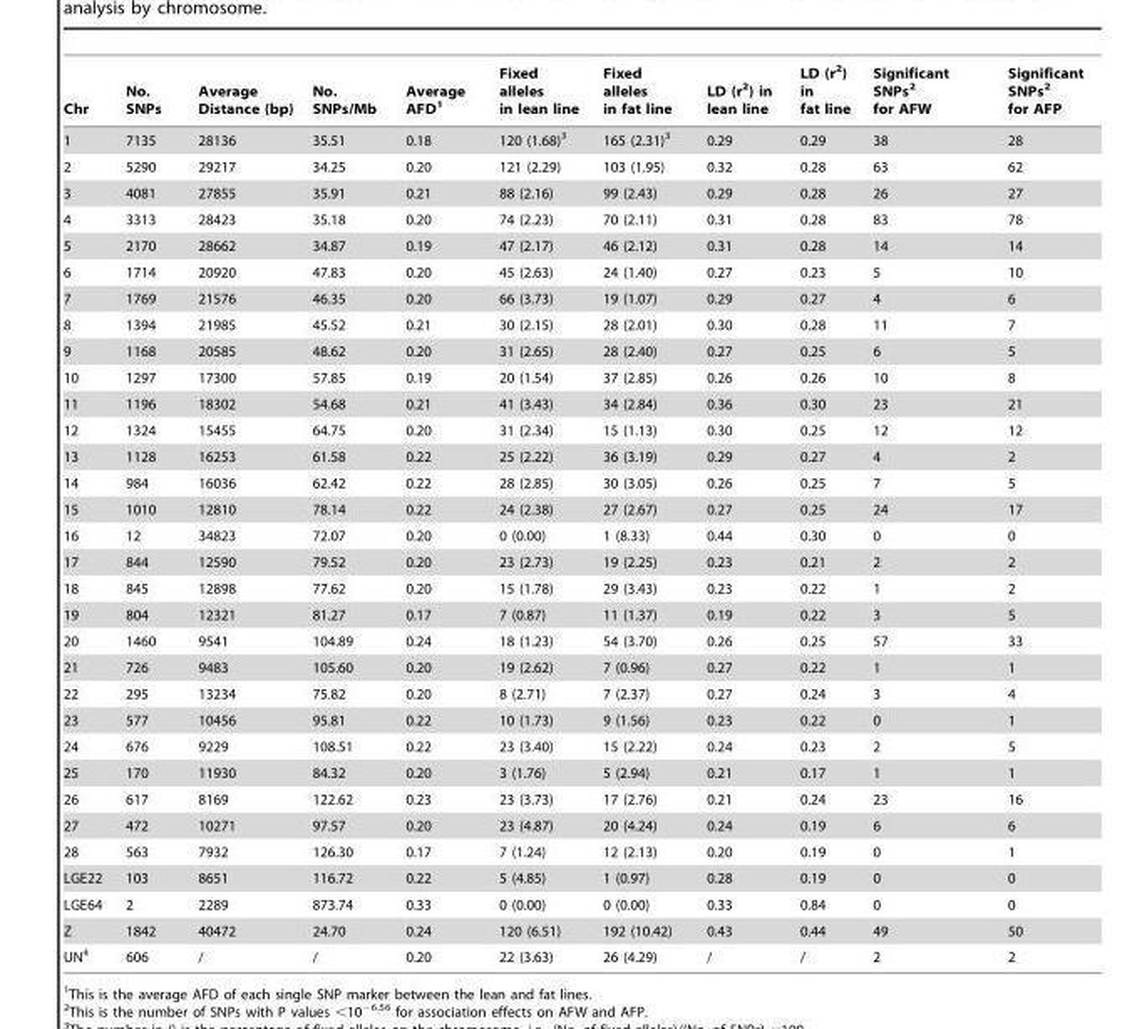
<table><thead><tr><td>Chr</td><td>No. SNPs</td><td>Average Distance (bp)</td><td>No. SNPs/Mb</td><td>Average AFD<sup>1</sup></td><td>Fixed alleles in lean line</td><td>Fixed alleles in fat line</td><td>LD (r<sup>2</sup>) in lean line</td><td>LD (r<sup>2</sup>) in fat line</td><td>Significant SNPs<sup>2</sup> for AFW</td><td>Significant SNPs<sup>2</sup> for AFP</td></tr></thead><tbody><tr><td>1</td><td>7135</td><td>28136</td><td>35.51</td><td>0.18</td><td>120 (1.68)<sup>3</sup></td><td>165 (2.31)<sup>3</sup></td><td>0.29</td><td>0.29</td><td>38</td><td>28</td></tr><tr><td>2</td><td>5290</td><td>29217</td><td>34.25</td><td>0.20</td><td>121 (2.29)</td><td>103 (1.95)</td><td>0.32</td><td>0.28</td><td>63</td><td>62</td></tr><tr><td>3</td><td>4081</td><td>27855</td><td>35.91</td><td>0.21</td><td>88 (2.16)</td><td>99 (2.43)</td><td>0.29</td><td>0.28</td><td>26</td><td>27</td></tr><tr><td>4</td><td>3313</td><td>28423</td><td>35.18</td><td>0.20</td><td>74 (2.23)</td><td>70 (2.11)</td><td>0.31</td><td>0.28</td><td>83</td><td>78</td></tr><tr><td>5</td><td>2170</td><td>28662</td><td>34.87</td><td>0.19</td><td>47 (2.17)</td><td>46 (2.12)</td><td>0.31</td><td>0.28</td><td>14</td><td>14</td></tr><tr><td>6</td><td>1714</td><td>20920</td><td>47.83</td><td>0.20</td><td>45 (2.63)</td><td>24 (1.40)</td><td>0.27</td><td>0.23</td><td>5</td><td>10</td></tr><tr><td>7</td><td>1769</td><td>21576</td><td>46.35</td><td>0.20</td><td>66 (3.73)</td><td>19 (1.07)</td><td>0.29</td><td>0.27</td><td>4</td><td>6</td></tr><tr><td>8</td><td>1394</td><td>21985</td><td>45.52</td><td>0.21</td><td>30 (2.15)</td><td>28 (2.01)</td><td>0.30</td><td>0.28</td><td>11</td><td>7</td></tr><tr><td>9</td><td>1168</td><td>20585</td><td>48.62</td><td>0.20</td><td>31 (2.65)</td><td>28 (2.40)</td><td>0.27</td><td>0.25</td><td>6</td><td>5</td></tr><tr><td>10</td><td>1297</td><td>17300</td><td>57.85</td><td>0.19</td><td>20 (1.54)</td><td>37 (2.85)</td><td>0.26</td><td>0.26</td><td>10</td><td>8</td></tr><tr><td>11</td><td>1196</td><td>18302</td><td>54.68</td><td>0.21</td><td>41 (3.43)</td><td>34 (2.84)</td><td>0.36</td><td>0.30</td><td>23</td><td>21</td></tr><tr><td>12</td><td>1324</td><td>15455</td><td>64.75</td><td>0.20</td><td>31 (2.34)</td><td>15 (1.13)</td><td>0.30</td><td>0.25</td><td>12</td><td>12</td></tr><tr><td>13</td><td>1128</td><td>16253</td><td>61.58</td><td>0.22</td><td>25 (2.22)</td><td>36 (3.19)</td><td>0.29</td><td>0.27</td><td>4</td><td>2</td></tr><tr><td>14</td><td>984</td><td>16036</td><td>62.42</td><td>0.22</td><td>28 (2.85)</td><td>30 (3.05)</td><td>0.26</td><td>0.25</td><td>7</td><td>5</td></tr><tr><td>15</td><td>1010</td><td>12810</td><td>78.14</td><td>0.22</td><td>24 (2.38)</td><td>27 (2.67)</td><td>0.27</td><td>0.25</td><td>24</td><td>17</td></tr><tr><td>16</td><td>12</td><td>34823</td><td>72.07</td><td>0.20</td><td>0 (0.00)</td><td>1 (8.33)</td><td>0.44</td><td>0.30</td><td>0</td><td>0</td></tr><tr><td>17</td><td>844</td><td>12590</td><td>79.52</td><td>0.20</td><td>23 (2.73)</td><td>19 (2.25)</td><td>0.23</td><td>0.21</td><td>2</td><td>2</td></tr><tr><td>18</td><td>845</td><td>12898</td><td>77.62</td><td>0.20</td><td>15 (1.78)</td><td>29 (3.43)</td><td>0.23</td><td>0.22</td><td>1</td><td>2</td></tr><tr><td>19</td><td>804</td><td>12321</td><td>81.27</td><td>0.17</td><td>7 (0.87)</td><td>11 (1.37)</td><td>0.19</td><td>0.22</td><td>3</td><td>5</td></tr><tr><td>20</td><td>1460</td><td>9541</td><td>104.89</td><td>0.24</td><td>18 (1.23)</td><td>54 (3.70)</td><td>0.26</td><td>0.25</td><td>57</td><td>33</td></tr><tr><td>21</td><td>726</td><td>9483</td><td>105.60</td><td>0.20</td><td>19 (2.62)</td><td>7 (0.96)</td><td>0.27</td><td>0.22</td><td>1</td><td>1</td></tr><tr><td>22</td><td>295</td><td>13234</td><td>75.82</td><td>0.20</td><td>8 (2.71)</td><td>7 (2.37)</td><td>0.27</td><td>0.24</td><td>3</td><td>4</td></tr><tr><td>23</td><td>577</td><td>10456</td><td>95.81</td><td>0.22</td><td>10 (1.73)</td><td>9 (1.56)</td><td>0.23</td><td>0.22</td><td>0</td><td>1</td></tr><tr><td>24</td><td>676</td><td>9229</td><td>108.51</td><td>0.22</td><td>23 (3.40)</td><td>15 (2.22)</td><td>0.24</td><td>0.23</td><td>2</td><td>5</td></tr><tr><td>25</td><td>170</td><td>11930</td><td>84.32</td><td>0.20</td><td>3 (1.76)</td><td>5 (2.94)</td><td>0.21</td><td>0.17</td><td>1</td><td>1</td></tr><tr><td>26</td><td>617</td><td>8169</td><td>122.62</td><td>0.23</td><td>23 (3.73)</td><td>17 (2.76)</td><td>0.21</td><td>0.24</td><td>23</td><td>16</td></tr><tr><td>27</td><td>472</td><td>10271</td><td>97.57</td><td>0.20</td><td>23 (4.87)</td><td>20 (4.24)</td><td>0.24</td><td>0.19</td><td>6</td><td>6</td></tr><tr><td>28</td><td>563</td><td>7932</td><td>126.30</td><td>0.17</td><td>7 (1.24)</td><td>12 (2.13)</td><td>0.20</td><td>0.19</td><td>0</td><td>1</td></tr><tr><td>LGE22</td><td>103</td><td>8651</td><td>116.72</td><td>0.22</td><td>5 (4.85)</td><td>1 (0.97)</td><td>0.28</td><td>0.19</td><td>0</td><td>0</td></tr><tr><td>LGE64</td><td>2</td><td>2289</td><td>873.74</td><td>0.33</td><td>0 (0.00)</td><td>0 (0.00)</td><td>0.33</td><td>0.84</td><td>0</td><td>0</td></tr><tr><td>Z</td><td>1842</td><td>40472</td><td>24.70</td><td>0.24</td><td>120 (6.51)</td><td>192 (10.42)</td><td>0.43</td><td>0.44</td><td>49</td><td>50</td></tr><tr><td>UN<sup>4</sup></td><td>606</td><td>/</td><td>/</td><td>0.20</td><td>22 (3.63)</td><td>26 (4.29)</td><td>/</td><td>/</td><td>2</td><td>2</td></tr></tbody></table>